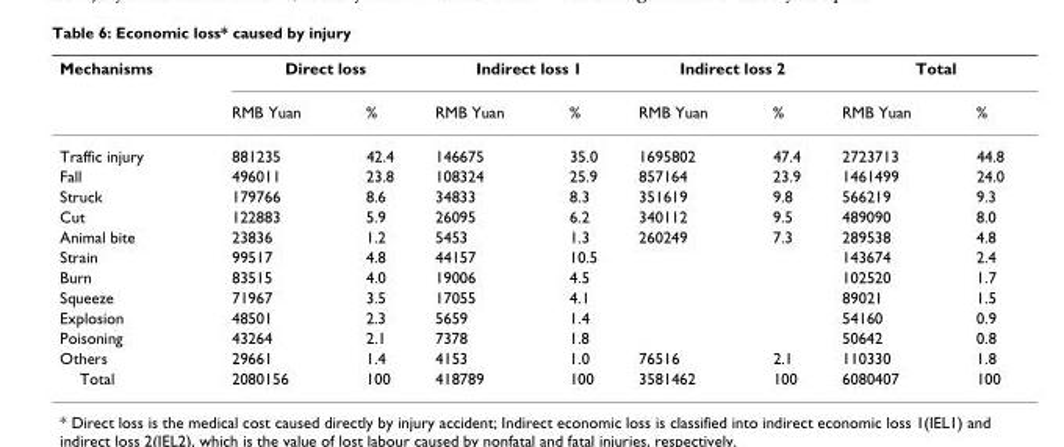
<table><thead><tr><td rowspan="2">Mechanisms</td><td colspan="2">Direct loss</td><td colspan="2">Indirect loss 1</td><td colspan="2">Indirect loss 2</td><td colspan="2">Total</td></tr><tr><td>RMB Yuan</td><td>%</td><td>RMB Yuan</td><td>%</td><td>RMB Yuan</td><td>%</td><td>RMB Yuan</td><td>%</td></tr></thead><tbody><tr><td>Traffic injury</td><td>881235</td><td>42.4</td><td>146675</td><td>35.0</td><td>1695802</td><td>47.4</td><td>2723713</td><td>44.8</td></tr><tr><td>Fall</td><td>496011</td><td>23.8</td><td>108324</td><td>25.9</td><td>857164</td><td>23.9</td><td>1461499</td><td>24.0</td></tr><tr><td>Struck</td><td>179766</td><td>8.6</td><td>34833</td><td>8.3</td><td>351619</td><td>9.8</td><td>566219</td><td>9.3</td></tr><tr><td>Cut</td><td>122883</td><td>5.9</td><td>26095</td><td>6.2</td><td>340112</td><td>9.5</td><td>489090</td><td>8.0</td></tr><tr><td>Animal bite</td><td>23836</td><td>1.2</td><td>5453</td><td>1.3</td><td>260249</td><td>7.3</td><td>289538</td><td>4.8</td></tr><tr><td>Strain</td><td>99517</td><td>4.8</td><td>44157</td><td>10.5</td><td></td><td></td><td>143674</td><td>2.4</td></tr><tr><td>Burn</td><td>83515</td><td>4.0</td><td>19006</td><td>4.5</td><td></td><td></td><td>102520</td><td>1.7</td></tr><tr><td>Squeeze</td><td>71967</td><td>3.5</td><td>17055</td><td>4.1</td><td></td><td></td><td>89021</td><td>1.5</td></tr><tr><td>Explosion</td><td>48501</td><td>2.3</td><td>5659</td><td>1.4</td><td></td><td></td><td>54160</td><td>0.9</td></tr><tr><td>Poisoning</td><td>43264</td><td>2.1</td><td>7378</td><td>1.8</td><td></td><td></td><td>50642</td><td>0.8</td></tr><tr><td>Others</td><td>29661</td><td>1.4</td><td>4153</td><td>1.0</td><td>76516</td><td>2.1</td><td>110330</td><td>1.8</td></tr><tr><td>Total</td><td>2080156</td><td>100</td><td>418789</td><td>100</td><td>3581462</td><td>100</td><td>6080407</td><td>100</td></tr></tbody></table>